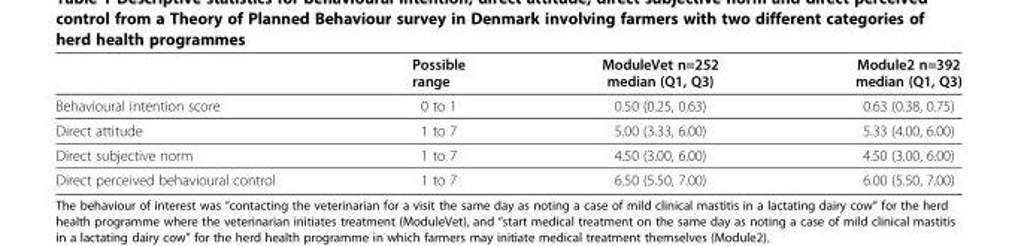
<table><thead><tr><td></td><td>Possible range</td><td>ModuleVet n=252 median (Q1, Q3)</td><td>Module2 n=392 median (Q1, Q3)</td></tr></thead><tbody><tr><td>Behavioural intention score</td><td>0 to 1</td><td>0.50 (0.25, 0.63)</td><td>0.63 (0.38, 0.75)</td></tr><tr><td>Direct attitude</td><td>1 to 7</td><td>5.00 (3.33, 6.00)</td><td>5.33 (4.00, 6.00)</td></tr><tr><td>Direct subjective norm</td><td>1 to 7</td><td>4.50 (3.00, 6.00)</td><td>4.50 (3.00, 6.00)</td></tr><tr><td>Direct perceived behavioural control</td><td>1 to 7</td><td>6.50 (5.50, 7.00)</td><td>6.00 (5.50, 7.00)</td></tr></tbody></table>